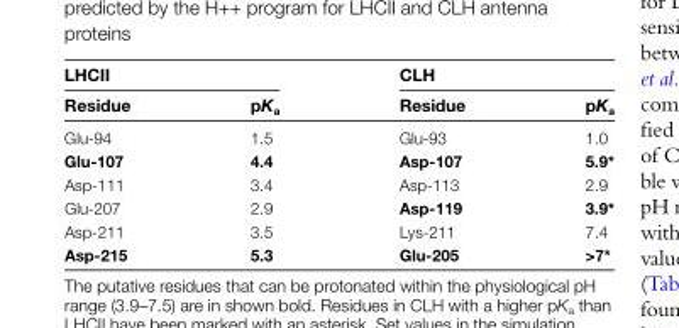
<table><thead><tr><td colspan="2">LHCII</td><td colspan="2">CLH</td></tr><tr><td>Residue</td><td>pK<sub>a</sub></td><td>Residue</td><td>pK<sub>a</sub></td></tr></thead><tbody><tr><td>Glu-94</td><td>1.5</td><td>Glu-93</td><td>1.0</td></tr><tr><td>Glu-107</td><td>4.4</td><td>Asp-107</td><td>5.9*</td></tr><tr><td>Asp-111</td><td>3.4</td><td>Asp-113</td><td>2.9</td></tr><tr><td>Glu-207</td><td>2.9</td><td>Asp-119</td><td>3.9*</td></tr><tr><td>Asp-211</td><td>3.5</td><td>Lys-211</td><td>7.4</td></tr><tr><td>Asp-215</td><td>5.3</td><td>Glu-205</td><td>&gt;7*</td></tr></tbody></table>